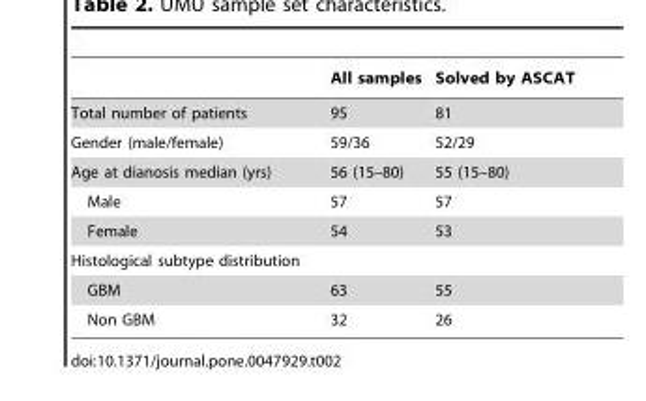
<table><thead><tr><td></td><td>All samples</td><td>Solved by ASCAT</td></tr></thead><tbody><tr><td>Total number of patients</td><td>95</td><td>81</td></tr><tr><td>Gender (male/female)</td><td>59/36</td><td>52/29</td></tr><tr><td>Age at dianosis median (yrs)</td><td>56 (15–80)</td><td>55 (15–80)</td></tr><tr><td>Male</td><td>57</td><td>57</td></tr><tr><td>Female</td><td>54</td><td>53</td></tr><tr><td colspan="3">Histological subtype distribution</td></tr><tr><td>GBM</td><td>63</td><td>55</td></tr><tr><td>Non GBM</td><td>32</td><td>26</td></tr></tbody></table>